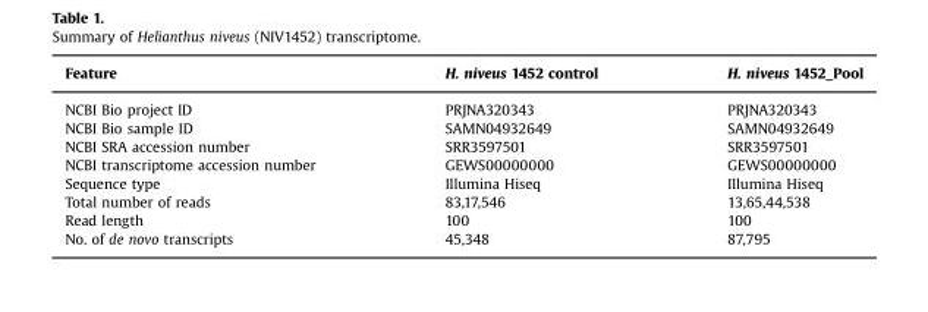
<table><thead><tr><td>Feature</td><td>H. niveus 1452 control</td><td>H. niveus 1452_Pool</td></tr></thead><tbody><tr><td>NCBI Bio project ID</td><td>PRJNA320343</td><td>PRJNA320343</td></tr><tr><td>NCBI Bio sample ID</td><td>SAMN04932649</td><td>SAMN04932649</td></tr><tr><td>NCBI SRA accession number</td><td>SRR3597501</td><td>SRR3597501</td></tr><tr><td>NCBI transcriptome accession number</td><td>GEWS00000000</td><td>GEWS00000000</td></tr><tr><td>Sequence type</td><td>Illumina Hiseq</td><td>Illumina Hiseq</td></tr><tr><td>Total number of reads</td><td>83,17,546</td><td>13,65,44,538</td></tr><tr><td>Read length</td><td>100</td><td>100</td></tr><tr><td>No. of de novo transcripts</td><td>45,348</td><td>87,795</td></tr></tbody></table>